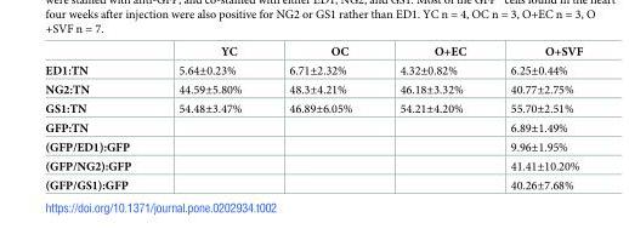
<table><thead><tr><td></td><td>YC</td><td>OC</td><td>O+EC</td><td>O+SVF</td></tr></thead><tbody><tr><td>ED1:TN</td><td>5.64±0.23%</td><td>6.71±2.32%</td><td>4.32±0.82%</td><td>6.25±0.44%</td></tr><tr><td>NG2:TN</td><td>44.59±5.80%</td><td>48.3±4.21%</td><td>46.18±3.32%</td><td>40.77±2.75%</td></tr><tr><td>GS1:TN</td><td>54.48±3.47%</td><td>46.89±6.05%</td><td>54.21±4.20%</td><td>55.70±2.51%</td></tr><tr><td>GFP:TN</td><td></td><td></td><td></td><td>6.89±1.49%</td></tr><tr><td>(GFP/ED1):GFP</td><td></td><td></td><td></td><td>9.96±1.95%</td></tr><tr><td>(GFP/NG2):GFP</td><td></td><td></td><td></td><td>41.41±10.20%</td></tr><tr><td>(GFP/GS1):GFP</td><td></td><td></td><td></td><td>40.26±7.68%</td></tr></tbody></table>